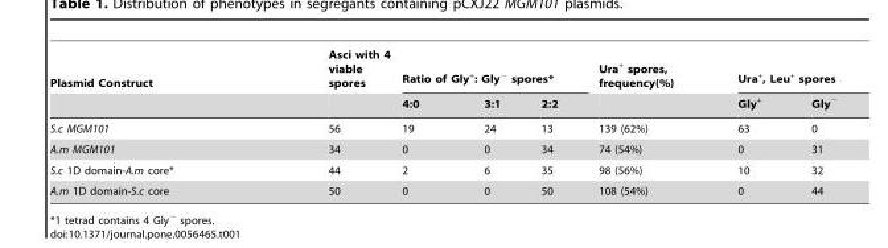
<table><thead><tr><td rowspan="2">Plasmid Construct</td><td rowspan="2">Asci with 4 viable spores</td><td colspan="3">Ratio of Gly<sup>+</sup>: Gly<sup>−</sup> spores*</td><td rowspan="2">Ura<sup>+</sup> spores, frequency(%)</td><td colspan="2">Ura<sup>+</sup>, Leu<sup>+</sup> spores</td></tr><tr><td>4:0</td><td>3:1</td><td>2:2</td><td>Gly<sup>+</sup></td><td>Gly<sup>−</sup></td></tr></thead><tbody><tr><td>S.c MGM101</td><td>56</td><td>19</td><td>24</td><td>13</td><td>139 (62%)</td><td>63</td><td>0</td></tr><tr><td>A.m MGM101</td><td>34</td><td>0</td><td>0</td><td>34</td><td>74 (54%)</td><td>0</td><td>31</td></tr><tr><td>S.c 1D domain-A.m core*</td><td>44</td><td>2</td><td>6</td><td>35</td><td>98 (56%)</td><td>10</td><td>32</td></tr><tr><td>A.m 1D domain-S.c core</td><td>50</td><td>0</td><td>0</td><td>50</td><td>108 (54%)</td><td>0</td><td>44</td></tr></tbody></table>